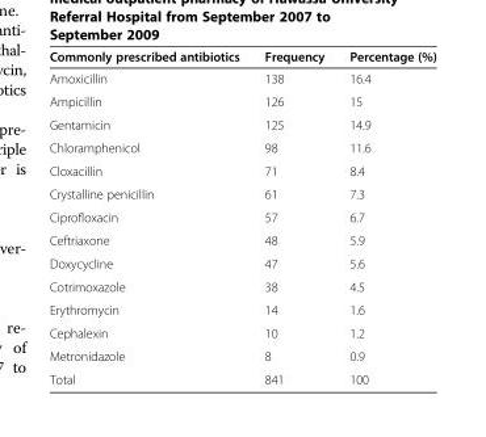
<table><thead><tr><td>Commonly prescribed antibiotics</td><td>Frequency</td><td>Percentage (%)</td></tr></thead><tbody><tr><td>Amoxicillin</td><td>138</td><td>16.4</td></tr><tr><td>Ampicillin</td><td>126</td><td>15</td></tr><tr><td>Gentamicin</td><td>125</td><td>14.9</td></tr><tr><td>Chloramphenicol</td><td>98</td><td>11.6</td></tr><tr><td>Cloxacillin</td><td>71</td><td>8.4</td></tr><tr><td>Crystalline penicillin</td><td>61</td><td>7.3</td></tr><tr><td>Ciprofloxacin</td><td>57</td><td>6.7</td></tr><tr><td>Ceftriaxone</td><td>48</td><td>5.9</td></tr><tr><td>Doxycycline</td><td>47</td><td>5.6</td></tr><tr><td>Cotrimoxazole</td><td>38</td><td>4.5</td></tr><tr><td>Erythromycin</td><td>14</td><td>1.6</td></tr><tr><td>Cephalexin</td><td>10</td><td>1.2</td></tr><tr><td>Metronidazole</td><td>8</td><td>0.9</td></tr><tr><td>Total</td><td>841</td><td>100</td></tr></tbody></table>